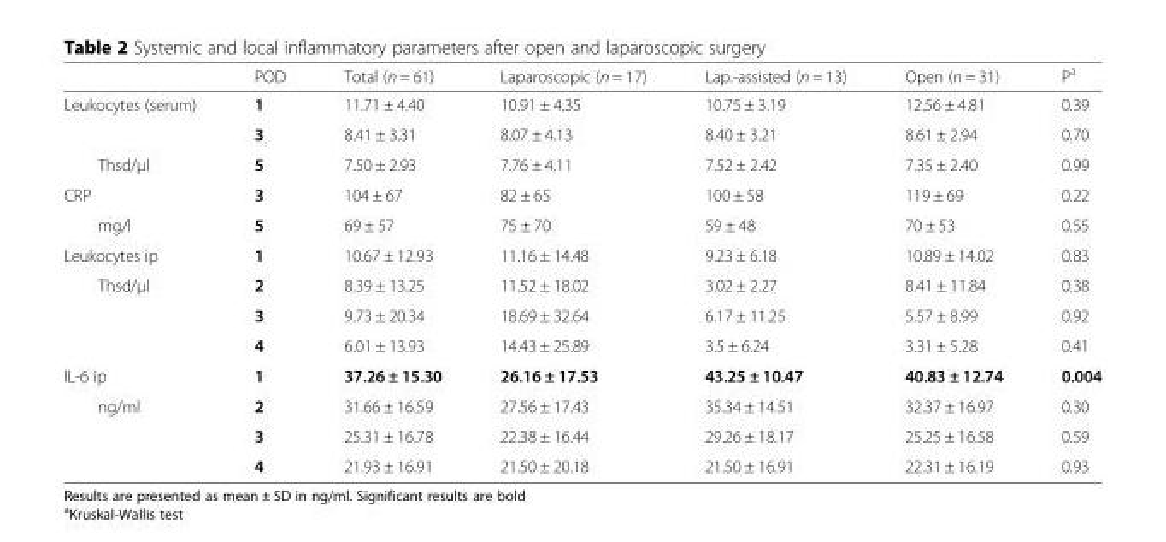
<table><thead><tr><td></td><td>POD</td><td>Total (n = 61)</td><td>Laparoscopic (n = 17)</td><td>Lap.-assisted (n = 13)</td><td>Open (n = 31)</td><td>P<sup>a</sup></td></tr></thead><tbody><tr><td rowspan="2">Leukocytes (serum)</td><td>1</td><td>11.71 ± 4.40</td><td>10.91 ± 4.35</td><td>10.75 ± 3.19</td><td>12.56 ± 4.81</td><td>0.39</td></tr><tr><td>3</td><td>8.41 ± 3.31</td><td>8.07 ± 4.13</td><td>8.40 ± 3.21</td><td>8.61 ± 2.94</td><td>0.70</td></tr><tr><td>Thsd/μl</td><td>5</td><td>7.50 ± 2.93</td><td>7.76 ± 4.11</td><td>7.52 ± 2.42</td><td>7.35 ± 2.40</td><td>0.99</td></tr><tr><td>CRP</td><td>3</td><td>104 ± 67</td><td>82 ± 65</td><td>100 ± 58</td><td>119 ± 69</td><td>0.22</td></tr><tr><td>mg/l</td><td>5</td><td>69 ± 57</td><td>75 ± 70</td><td>59 ± 48</td><td>70 ± 53</td><td>0.55</td></tr><tr><td>Leukocytes ip</td><td>1</td><td>10.67 ± 12.93</td><td>11.16 ± 14.48</td><td>9.23 ± 6.18</td><td>10.89 ± 14.02</td><td>0.83</td></tr><tr><td rowspan="3">Thsd/μl</td><td>2</td><td>8.39 ± 13.25</td><td>11.52 ± 18.02</td><td>3.02 ± 2.27</td><td>8.41 ± 11.84</td><td>0.38</td></tr><tr><td>3</td><td>9.73 ± 20.34</td><td>18.69 ± 32.64</td><td>6.17 ± 11.25</td><td>5.57 ± 8.99</td><td>0.92</td></tr><tr><td>4</td><td>6.01 ± 13.93</td><td>14.43 ± 25.89</td><td>3.5 ± 6.24</td><td>3.31 ± 5.28</td><td>0.41</td></tr><tr><td>IL-6 ip</td><td>1</td><td>37.26 ± 15.30</td><td>26.16 ± 17.53</td><td>43.25 ± 10.47</td><td>40.83 ± 12.74</td><td>0.004</td></tr><tr><td rowspan="3">ng/ml</td><td>2</td><td>31.66 ± 16.59</td><td>27.56 ± 17.43</td><td>35.34 ± 14.51</td><td>32.37 ± 16.97</td><td>0.30</td></tr><tr><td>3</td><td>25.31 ± 16.78</td><td>22.38 ± 16.44</td><td>29.26 ± 18.17</td><td>25.25 ± 16.58</td><td>0.59</td></tr><tr><td>4</td><td>21.93 ± 16.91</td><td>21.50 ± 20.18</td><td>21.50 ± 16.91</td><td>22.31 ± 16.19</td><td>0.93</td></tr></tbody></table>